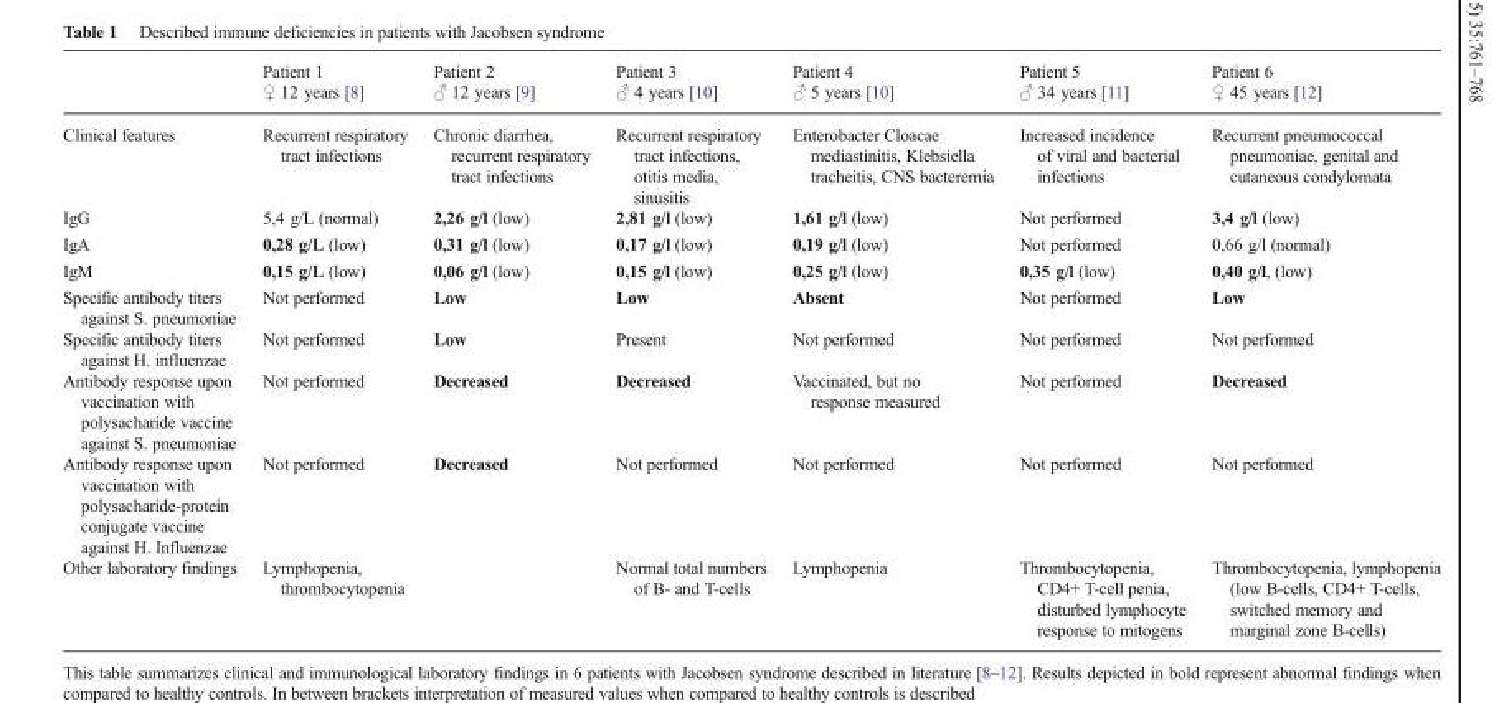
<table><thead><tr><td></td><td>Patient 1 ♀ 12 years [8]</td><td>Patient 2 ♂ 12 years [9]</td><td>Patient 3 ♂ 4 years [10]</td><td>Patient 4 ♂ 5 years [10]</td><td>Patient 5 ♂ 34 years [11]</td><td>Patient 6 ♀ 45 years [12]</td></tr></thead><tbody><tr><td>Clinical features</td><td>Recurrent respiratory tract infections</td><td>Chronic diarrhea, recurrent respiratory tract infections</td><td>Recurrent respiratory tract infections, otitis media, sinusitis</td><td>Enterobacter Cloacae mediastinitis, Klebsiella tracheitis, CNS bacteremia</td><td>Increased incidence of viral and bacterial infections</td><td>Recurrent pneumococcal pneumoniae, genital and cutaneous condylomata</td></tr><tr><td>IgG</td><td>5,4 g/L (normal)</td><td>2,26 g/l (low)</td><td>2,81 g/l (low)</td><td>1,61 g/l (low)</td><td>Not performed</td><td>3,4 g/l (low)</td></tr><tr><td>IgA</td><td>0,28 g/L (low)</td><td>0,31 g/l (low)</td><td>0,17 g/l (low)</td><td>0,19 g/l (low)</td><td>Not performed</td><td>0,66 g/l (normal)</td></tr><tr><td>IgM</td><td>0,15 g/L (low)</td><td>0,06 g/l (low)</td><td>0,15 g/l (low)</td><td>0,25 g/l (low)</td><td>0,35 g/l (low)</td><td>0,40 g/l, (low)</td></tr><tr><td>Specific antibody titers against S. pneumoniae</td><td>Not performed</td><td>Low</td><td>Low</td><td>Absent</td><td>Not performed</td><td>Low</td></tr><tr><td>Specific antibody titers against H. influenzae</td><td>Not performed</td><td>Low</td><td>Present</td><td>Not performed</td><td>Not performed</td><td>Not performed</td></tr><tr><td>Antibody response upon vaccination with polysacharide vaccine against S. pneumoniae</td><td>Not performed</td><td>Decreased</td><td>Decreased</td><td>Vaccinated, but no response measured</td><td>Not performed</td><td>Decreased</td></tr><tr><td>Antibody response upon vaccination with polysacharide-protein conjugate vaccine against H. Influenzae</td><td>Not performed</td><td>Decreased</td><td>Not performed</td><td>Not performed</td><td>Not performed</td><td>Not performed</td></tr><tr><td>Other laboratory findings</td><td>Lymphopenia, thrombocytopenia</td><td></td><td>Normal total numbers of B- and T-cells</td><td>Lymphopenia</td><td>Thrombocytopenia, CD4+ T-cell penia, disturbed lymphocyte response to mitogens</td><td>Thrombocytopenia, lymphopenia (low B-cells, CD4+ T-cells, switched memory and marginal zone B-cells)</td></tr></tbody></table>